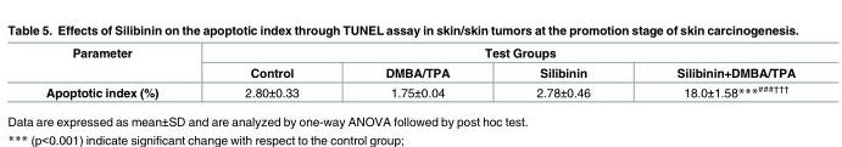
<table><thead><tr><td rowspan="2">Parameter</td><td colspan="4">Test Groups</td></tr><tr><td>Control</td><td>DMBA/TPA</td><td>Silibinin</td><td>Silibinin+DMBA/TPA</td></tr></thead><tbody><tr><td>Apoptotic index (%)</td><td>2.80±0.33</td><td>1.75±0.04</td><td>2.78±0.46</td><td>18.0±1.58***<sup>###†††</sup></td></tr></tbody></table>